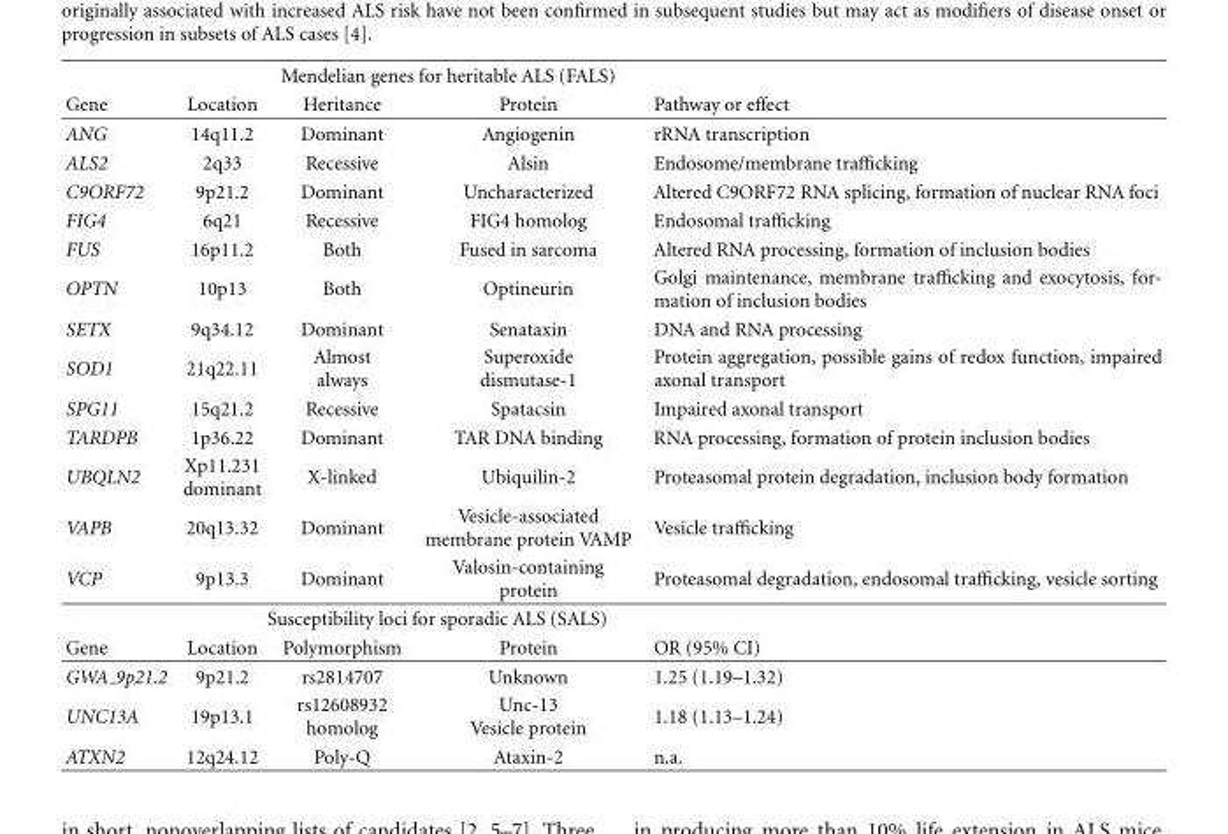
<table><thead><tr><td colspan="5">Mendelian genes for heritable ALS (FALS)</td></tr><tr><td>Gene</td><td>Location</td><td>Heritance</td><td>Protein</td><td>Pathway or effect</td></tr></thead><tbody><tr><td>ANG</td><td>14q11.2</td><td>Dominant</td><td>Angiogenin</td><td>rRNA transcription</td></tr><tr><td>ALS2</td><td>2q33</td><td>Recessive</td><td>Alsin</td><td>Endosome/membrane trafficking</td></tr><tr><td>C9ORF72</td><td>9p21.2</td><td>Dominant</td><td>Uncharacterized</td><td>Altered C9ORF72 RNA splicing, formation of nuclear RNA foci</td></tr><tr><td>FIG4</td><td>6q21</td><td>Recessive</td><td>FIG4 homolog</td><td>Endosomal trafficking</td></tr><tr><td>FUS</td><td>16p11.2</td><td>Both</td><td>Fused in sarcoma</td><td>Altered RNA processing, formation of inclusion bodies</td></tr><tr><td>OPTN</td><td>10p13</td><td>Both</td><td>Optineurin</td><td>Golgi maintenance, membrane trafficking and exocytosis, for- mation of inclusion bodies</td></tr><tr><td>SETX</td><td>9q34.12</td><td>Dominant</td><td>Senataxin</td><td>DNA and RNA processing</td></tr><tr><td>SOD1</td><td>21q22.11</td><td>Almost always</td><td>Superoxide dismutase-1</td><td>Protein aggregation, possible gains of redox function, impaired axonal transport</td></tr><tr><td>SPG11</td><td>15q21.2</td><td>Recessive</td><td>Spatacsin</td><td>Impaired axonal transport</td></tr><tr><td>TARDPB</td><td>1p36.22</td><td>Dominant</td><td>TAR DNA binding</td><td>RNA processing, formation of protein inclusion bodies</td></tr><tr><td>UBQLN2</td><td>Xp11.231 dominant</td><td>X-linked</td><td>Ubiquilin-2</td><td>Proteasomal protein degradation, inclusion body formation</td></tr><tr><td>VAPB</td><td>20q13.32</td><td>Dominant</td><td>Vesicle-associated membrane protein VAMP</td><td>Vesicle trafficking</td></tr><tr><td>VCP</td><td>9p13.3</td><td>Dominant</td><td>Valosin-containing protein</td><td>Proteasomal degradation, endosomal trafficking, vesicle sorting</td></tr><tr><td colspan="5">Susceptibility loci for sporadic ALS (SALS)</td></tr><tr><td>Gene</td><td>Location</td><td>Polymorphism</td><td>Protein</td><td>OR (95% CI)</td></tr><tr><td>GWA 9p21.2</td><td>9p21.2</td><td>rs2814707</td><td>Unknown</td><td>1.25 (1.19–1.32)</td></tr><tr><td>UNC13A</td><td>19p13.1</td><td>rs12608932 homolog</td><td>Unc-13 Vesicle protein</td><td>1.18 (1.13–1.24)</td></tr><tr><td>ATXN2</td><td>12q24.12</td><td>Poly-Q</td><td>Ataxin-2</td><td>n.a.</td></tr></tbody></table>